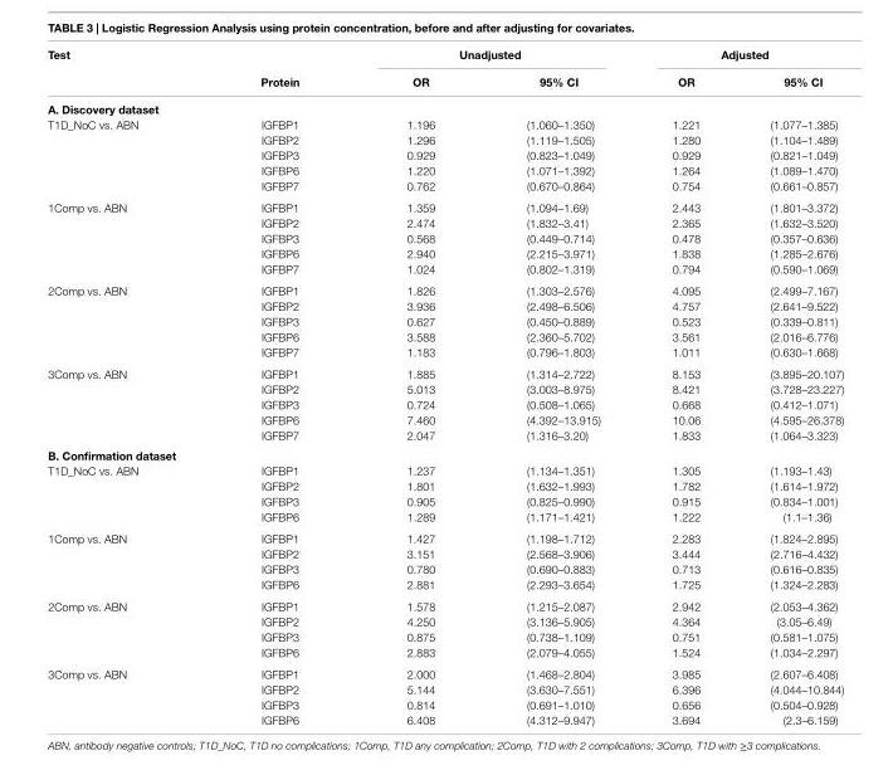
<table><thead><tr><td rowspan="2">Test</td><td rowspan="2">Protein</td><td colspan="2">Unadjusted</td><td colspan="2">adjusted</td></tr><tr><td>Or</td><td>95% ci</td><td>Or</td><td>95% ci</td></tr></thead><tbody><tr><td colspan="6">a. Discovery dataset</td></tr><tr><td rowspan="5">T1D_NoC vs. ABN</td><td>IGFBP1</td><td>1.196</td><td>(1.060–1.350)</td><td>1.221</td><td>(1.077–1.385)</td></tr><tr><td>IGFBP2</td><td>1.296</td><td>(1.119–1.505)</td><td>1.280</td><td>(1.104–1.489)</td></tr><tr><td>IGFBP3</td><td>0.929</td><td>(0.823–1.049)</td><td>0.929</td><td>(0.821–1.049)</td></tr><tr><td>IGFBP6</td><td>1.220</td><td>(1.071–1.392)</td><td>1.264</td><td>(1.089–1.470)</td></tr><tr><td>IGFBP7</td><td>0.762</td><td>(0.670–0.864)</td><td>0.754</td><td>(0.661–0.857)</td></tr><tr><td rowspan="5">1Comp vs. ABN</td><td>IGFBP1</td><td>1.359</td><td>(1.094–1.69)</td><td>2.443</td><td>(1.801–3.372)</td></tr><tr><td>IGFBP2</td><td>2.474</td><td>(1.832–3.41)</td><td>2.365</td><td>(1.632–3.520)</td></tr><tr><td>IGFBP3</td><td>0.568</td><td>(0.449–0.714)</td><td>0.478</td><td>(0.357–0.636)</td></tr><tr><td>IGFBP6</td><td>2.940</td><td>(2.215–3.971)</td><td>1.838</td><td>(1.285–2.676)</td></tr><tr><td>IGFBP7</td><td>1.024</td><td>(0.802–1.319)</td><td>0.794</td><td>(0.590–1.069)</td></tr><tr><td rowspan="5">2Comp vs. ABN</td><td>IGFBP1</td><td>1.826</td><td>(1.303–2.576)</td><td>4.095</td><td>(2.499–7.167)</td></tr><tr><td>IGFBP2</td><td>3.936</td><td>(2.498–6.506)</td><td>4.757</td><td>(2.641–9.522)</td></tr><tr><td>IGFBP3</td><td>0.627</td><td>(0.450–0.889)</td><td>0.523</td><td>(0.339–0.811)</td></tr><tr><td>IGFBP6</td><td>3.588</td><td>(2.360–5.702)</td><td>3.561</td><td>(2.016–6.776)</td></tr><tr><td>IGFBP7</td><td>1.183</td><td>(0.796–1.803)</td><td>1.011</td><td>(0.630–1.668)</td></tr><tr><td rowspan="5">3Comp vs. ABN</td><td>IGFBP1</td><td>1.885</td><td>(1.314–2.722)</td><td>8.153</td><td>(3.895–20.107)</td></tr><tr><td>IGFBP2</td><td>5.013</td><td>(3.003–8.975)</td><td>8.421</td><td>(3.728–23.227)</td></tr><tr><td>IGFBP3</td><td>0.724</td><td>(0.508–1.065)</td><td>0.668</td><td>(0.412–1.071)</td></tr><tr><td>IGFBP6</td><td>7.460</td><td>(4.392–13.915)</td><td>10.06</td><td>(4.595–26.378)</td></tr><tr><td>IGFBP7</td><td>2.047</td><td>(1.316–3.20)</td><td>1.833</td><td>(1.064–3.323)</td></tr><tr><td colspan="6">B. confirmation dataset</td></tr><tr><td rowspan="4">T1D_NoC vs. ABN</td><td>IGFBP1</td><td>1.237</td><td>(1.134–1.351)</td><td>1.305</td><td>(1.193–1.43)</td></tr><tr><td>IGFBP2</td><td>1.801</td><td>(1.632–1.993)</td><td>1.782</td><td>(1.614–1.972)</td></tr><tr><td>IGFBP3</td><td>0.905</td><td>(0.825–0.990)</td><td>0.915</td><td>(0.834–1.001)</td></tr><tr><td>IGFBP6</td><td>1.289</td><td>(1.171–1.421)</td><td>1.222</td><td>(1.1–1.36)</td></tr><tr><td rowspan="4">1Comp vs. ABN</td><td>IGFBP1</td><td>1.427</td><td>(1.198–1.712)</td><td>2.283</td><td>(1.824–2.895)</td></tr><tr><td>IGFBP2</td><td>3.151</td><td>(2.568–3.906)</td><td>3.444</td><td>(2.716–4.432)</td></tr><tr><td>IGFBP3</td><td>0.780</td><td>(0.690–0.883)</td><td>0.713</td><td>(0.616–0.835)</td></tr><tr><td>IGFBP6</td><td>2.881</td><td>(2.293–3.654)</td><td>1.725</td><td>(1.324–2.283)</td></tr><tr><td rowspan="4">2Comp vs. ABN</td><td>IGFBP1</td><td>1.578</td><td>(1.215–2.087)</td><td>2.942</td><td>(2.053–4.362)</td></tr><tr><td>IGFBP2</td><td>4.250</td><td>(3.136–5.905)</td><td>4.364</td><td>(3.05–6.49)</td></tr><tr><td>IGFBP3</td><td>0.875</td><td>(0.738–1.109)</td><td>0.751</td><td>(0.581–1.075)</td></tr><tr><td>IGFBP6</td><td>2.883</td><td>(2.079–4.055)</td><td>1.524</td><td>(1.034–2.297)</td></tr><tr><td rowspan="4">3Comp vs. ABN</td><td>IGFBP1</td><td>2.000</td><td>(1.468–2.804)</td><td>3.985</td><td>(2.607–6.408)</td></tr><tr><td>IGFBP2</td><td>5.144</td><td>(3.630–7.551)</td><td>6.396</td><td>(4.044–10.844)</td></tr><tr><td>IGFBP3</td><td>0.814</td><td>(0.691–1.010)</td><td>0.656</td><td>(0.504–0.928)</td></tr><tr><td>IGFBP6</td><td>6.408</td><td>(4.312–9.947)</td><td>3.694</td><td>(2.3–6.159)</td></tr></tbody></table>